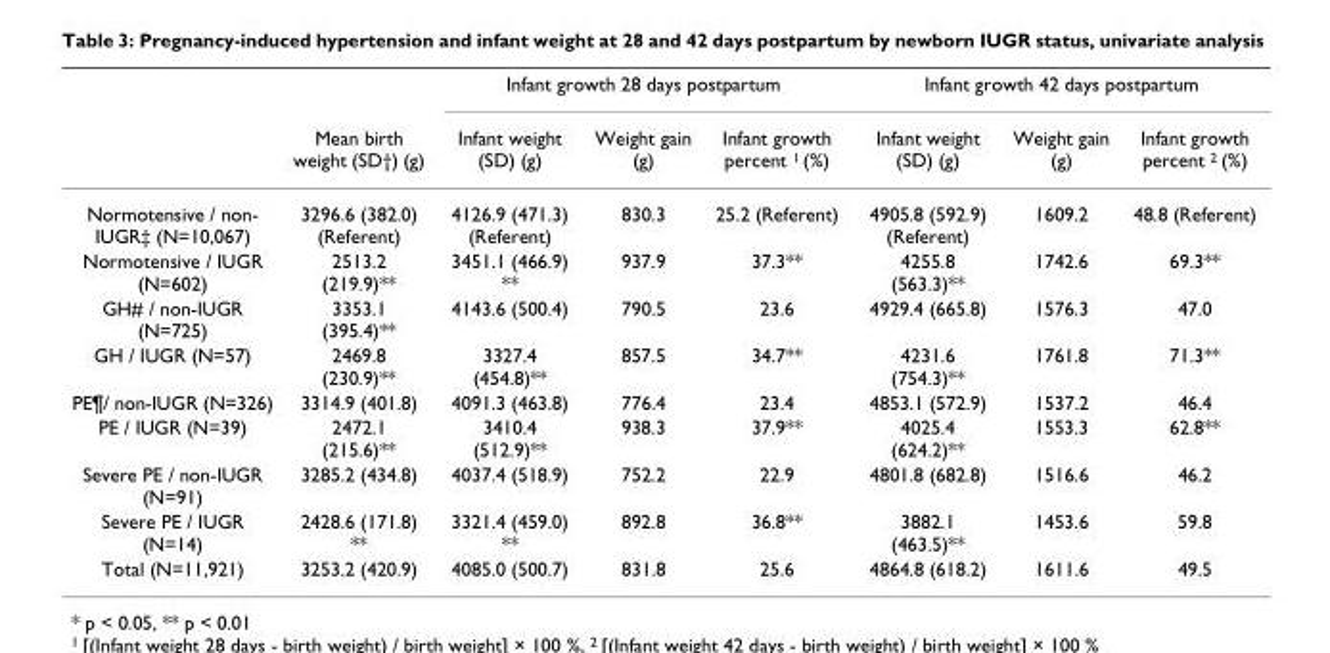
<table><thead><tr><td rowspan="2"></td><td rowspan="2">Mean birth weight (SD†) (g)</td><td colspan="3">Infant growth 28 days postpartum</td><td colspan="3">Infant growth 42 days postpartum</td></tr><tr><td>Infant weight (SD) (g)</td><td>Weight gain (g)</td><td>Infant growth percent <sup>1</sup> (%)</td><td>Infant weight (SD) (g)</td><td>Weight gain (g)</td><td>Infant growth percent <sup>2</sup> (%)</td></tr></thead><tbody><tr><td>Normotensive / non- IUGR‡ (N=10,067)</td><td>3296.6 (382.0) (Referent)</td><td>4126.9 (471.3) (Referent)</td><td>830.3</td><td>25.2 (Referent)</td><td>4905.8 (592.9) (Referent)</td><td>1609.2</td><td>48.8 (Referent)</td></tr><tr><td>Normotensive / IUGR (N=602)</td><td>2513.2 (219.9)**</td><td>3451.1 (466.9) **</td><td>937.9</td><td>37.3**</td><td>4255.8 (563.3)**</td><td>1742.6</td><td>69.3**</td></tr><tr><td>GH# / non-IUGR (N=725)</td><td>3353.1 (395.4)**</td><td>4143.6 (500.4)</td><td>790.5</td><td>23.6</td><td>4929.4 (665.8)</td><td>1576.3</td><td>47.0</td></tr><tr><td>GH / IUGR (N=57)</td><td>2469.8 (230.9)**</td><td>3327.4 (454.8)**</td><td>857.5</td><td>34.7**</td><td>4231.6 (754.3)**</td><td>1761.8</td><td>71.3**</td></tr><tr><td>PE¶/ non-IUGR (N=326)</td><td>3314.9 (401.8)</td><td>4091.3 (463.8)</td><td>776.4</td><td>23.4</td><td>4853.1 (572.9)</td><td>1537.2</td><td>46.4</td></tr><tr><td>PE / IUGR (N=39)</td><td>2472.1 (215.6)**</td><td>3410.4 (512.9)**</td><td>938.3</td><td>37.9**</td><td>4025.4 (624.2)**</td><td>1553.3</td><td>62.8**</td></tr><tr><td>Severe PE / non-IUGR (N=91)</td><td>3285.2 (434.8)</td><td>4037.4 (518.9)</td><td>752.2</td><td>22.9</td><td>4801.8 (682.8)</td><td>1516.6</td><td>46.2</td></tr><tr><td>Severe PE / IUGR (N=14)</td><td>2428.6 (171.8) **</td><td>3321.4 (459.0) **</td><td>892.8</td><td>36.8**</td><td>3882.1 (463.5)**</td><td>1453.6</td><td>59.8</td></tr><tr><td>Total (N=11,921)</td><td>3253.2 (420.9)</td><td>4085.0 (500.7)</td><td>831.8</td><td>25.6</td><td>4864.8 (618.2)</td><td>1611.6</td><td>49.5</td></tr></tbody></table>